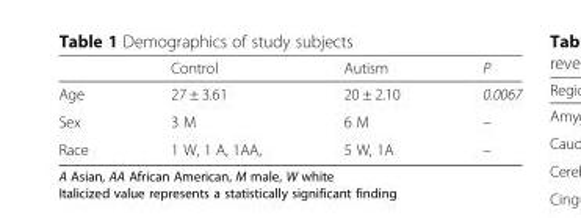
<table><thead><tr><td></td><td>Control</td><td>Autism</td><td>P</td></tr></thead><tbody><tr><td>Age</td><td>27 ± 3.61</td><td>20 ± 2.10</td><td>0.0067</td></tr><tr><td>Sex</td><td>3 M</td><td>6 M</td><td>–</td></tr><tr><td>Race</td><td>1 W, 1 A, 1AA,</td><td>5 W, 1A</td><td>–</td></tr></tbody></table>